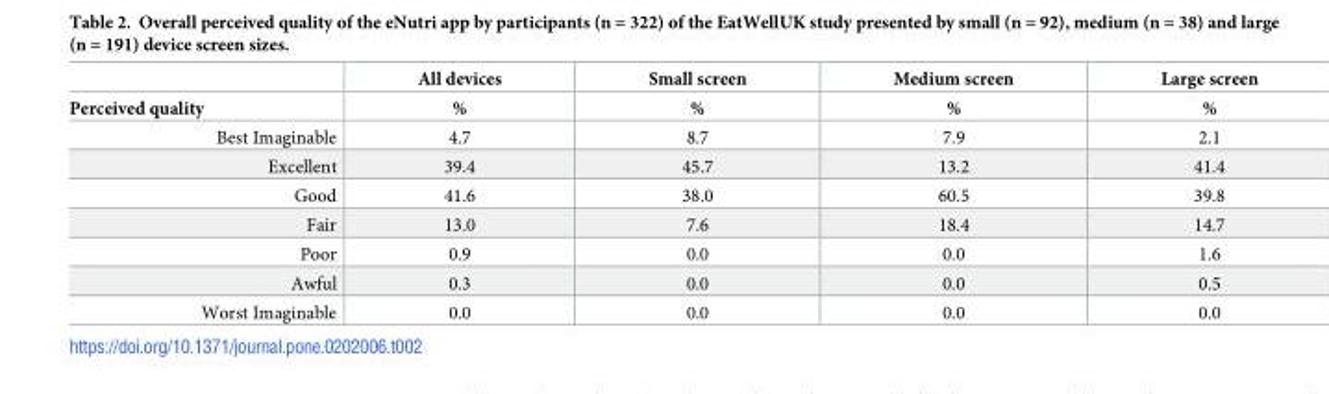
<table><thead><tr><td rowspan="2">Perceived quality</td><td rowspan="2">All devices %</td><td rowspan="2">Small screen %</td><td rowspan="2">Medium screen %</td><td rowspan="2">Large screen %</td></tr><tr></tr></thead><tbody><tr><td>Best Imaginable</td><td>4.7</td><td>8.7</td><td>7.9</td><td>2.1</td></tr><tr><td>Excellent</td><td>39.4</td><td>45.7</td><td>13.2</td><td>41.4</td></tr><tr><td>Good</td><td>41.6</td><td>38.0</td><td>60.5</td><td>39.8</td></tr><tr><td>Fair</td><td>13.0</td><td>7.6</td><td>18.4</td><td>14.7</td></tr><tr><td>Poor</td><td>0.9</td><td>0.0</td><td>0.0</td><td>1.6</td></tr><tr><td>Awful</td><td>0.3</td><td>0.0</td><td>0.0</td><td>0.5</td></tr><tr><td>Worst Imaginable</td><td>0.0</td><td>0.0</td><td>0.0</td><td>0.0</td></tr></tbody></table>